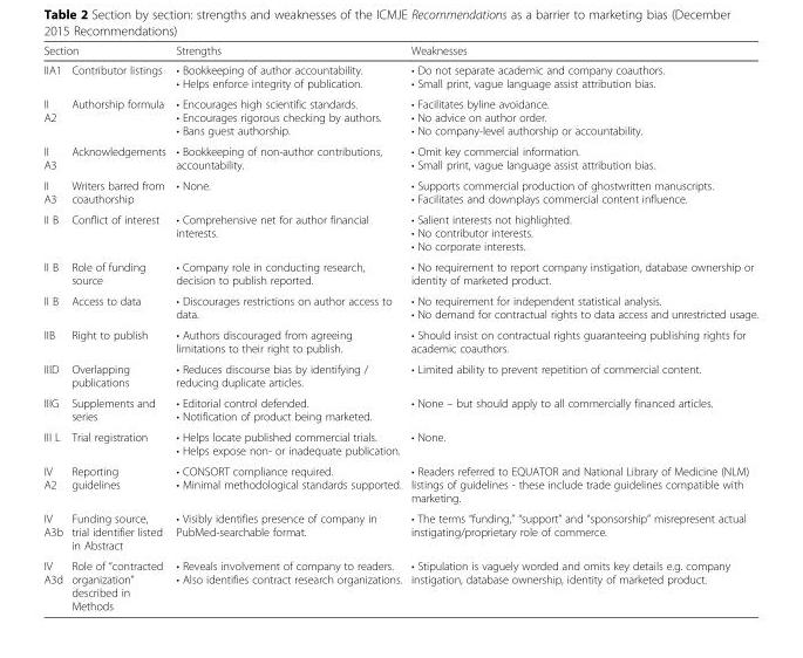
<table><thead><tr><td colspan="2">Section</td><td rowspan="2">Strengths • Bookkeeping of author accountability. • Helps enforce integrity of publication.</td><td rowspan="2">Weaknesses • Do not separate academic and company coauthors. • Small print, vague language assist attribution bias.</td></tr><tr><td>IIA1</td><td>Contributor listings</td></tr></thead><tbody><tr><td>II A2</td><td>Authorship formula</td><td>• Encourages high scientific standards. • Encourages rigorous checking by authors. • Bans guest authorship.</td><td>• Facilitates byline avoidance. • No advice on author order. • No company-level authorship or accountability.</td></tr><tr><td>II A3</td><td>Acknowledgements</td><td>• Bookkeeping of non-author contributions, accountability.</td><td>• Omit key commercial information. • Small print, vague language assist attribution bias.</td></tr><tr><td>II A3</td><td>Writers barred from coauthorship</td><td>• None.</td><td>• Supports commercial production of ghostwritten manuscripts. • Facilitates and downplays commercial content influence.</td></tr><tr><td>II B</td><td>Conflict of interest</td><td>• Comprehensive net for author financial interests.</td><td>• Salient interests not highlighted. • No contributor interests. • No corporate interests.</td></tr><tr><td>II B</td><td>Role of funding source</td><td>• Company role in conducting research, decision to publish reported.</td><td>• No requirement to report company instigation, database ownership or identity of marketed product.</td></tr><tr><td>II B</td><td>Access to data</td><td>• Discourages restrictions on author access to data.</td><td>• No requirement for independent statistical analysis. • No demand for contractual rights to data access and unrestricted usage.</td></tr><tr><td>IIB</td><td>Right to publish</td><td>• Authors discouraged from agreeing limitations to their right to publish.</td><td>• Should insist on contractual rights guaranteeing publishing rights for academic coauthors.</td></tr><tr><td>IIID</td><td>Overlapping publications</td><td>• Reduces discourse bias by identifying / reducing duplicate articles.</td><td>• Limited ability to prevent repetition of commercial content.</td></tr><tr><td>IIIG</td><td>Supplements and series</td><td>• Editorial control defended. • Notification of product being marketed.</td><td>• None – but should apply to all commercially financed articles.</td></tr><tr><td>III L</td><td>Trial registration</td><td>• Helps locate published commercial trials. • Helps expose non- or inadequate publication.</td><td>• None.</td></tr><tr><td>IV A2</td><td>Reporting guidelines</td><td>• CONSORT compliance required. • Minimal methodological standards supported.</td><td>• Readers referred to EQUATOR and National Library of Medicine (NLM) listings of guidelines - these include trade guidelines compatible with marketing.</td></tr><tr><td>IV A3b</td><td>Funding source, trial identifier listed in Abstract</td><td>• Visibly identifies presence of company in PubMed-searchable format.</td><td>• The terms “funding,” “support” and “sponsorship” misrepresent actual instigating/proprietary role of commerce.</td></tr><tr><td>IV A3d</td><td>Role of “contracted organization” described in Methods</td><td>• Reveals involvement of company to readers. • Also identifies contract research organizations.</td><td>• Stipulation is vaguely worded and omits key details e.g. company instigation, database ownership, identity of marketed product.</td></tr></tbody></table>